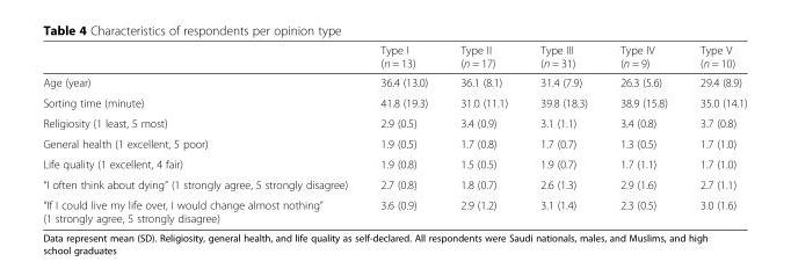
<table><thead><tr><td></td><td>Type I (n = 13)</td><td>Type II (n = 17)</td><td>Type III (n = 31)</td><td>Type IV (n = 9)</td><td>Type V (n = 10)</td></tr></thead><tbody><tr><td>Age (year)</td><td>36.4 (13.0)</td><td>36.1 (8.1)</td><td>31.4 (7.9)</td><td>26.3 (5.6)</td><td>29.4 (8.9)</td></tr><tr><td>Sorting time (minute)</td><td>41.8 (19.3)</td><td>31.0 (11.1)</td><td>39.8 (18.3)</td><td>38.9 (15.8)</td><td>35.0 (14.1)</td></tr><tr><td>Religiosity (1 least, 5 most)</td><td>2.9 (0.5)</td><td>3.4 (0.9)</td><td>3.1 (1.1)</td><td>3.4 (0.8)</td><td>3.7 (0.8)</td></tr><tr><td>General health (1 excellent, 5 poor)</td><td>1.9 (0.5)</td><td>1.7 (0.8)</td><td>1.7 (0.7)</td><td>1.3 (0.5)</td><td>1.7 (1.0)</td></tr><tr><td>Life quality (1 excellent, 4 fair)</td><td>1.9 (0.8)</td><td>1.5 (0.5)</td><td>1.9 (0.7)</td><td>1.7 (1.1)</td><td>1.7 (1.0)</td></tr><tr><td>“I often think about dying” (1 strongly agree, 5 strongly disagree)</td><td>2.7 (0.8)</td><td>1.8 (0.7)</td><td>2.6 (1.3)</td><td>2.9 (1.6)</td><td>2.7 (1.1)</td></tr><tr><td>“If I could live my life over, I would change almost nothing” (1 strongly agree, 5 strongly disagree)</td><td>3.6 (0.9)</td><td>2.9 (1.2)</td><td>3.1 (1.4)</td><td>2.3 (0.5)</td><td>3.0 (1.6)</td></tr></tbody></table>